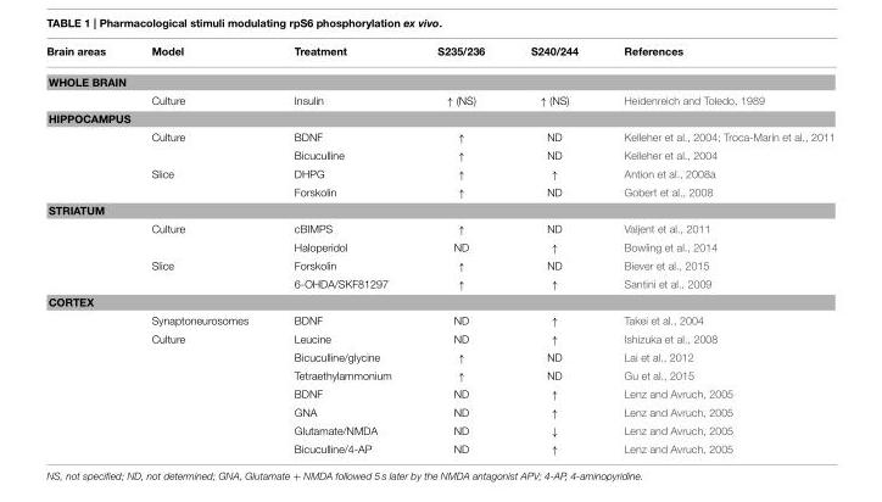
<table><thead><tr><td>Brain areas</td><td>Model</td><td>Treatment</td><td>S235/236</td><td>S240/244</td><td>References</td></tr></thead><tbody><tr><td colspan="6">WHOLE BRAIN</td></tr><tr><td></td><td>Culture</td><td>Insulin</td><td>↑ (NS)</td><td>↑ (NS)</td><td>Heidenreich and Toledo, 1989</td></tr><tr><td colspan="6">HIPPOCAMPUS</td></tr><tr><td></td><td>Culture</td><td>BDNF</td><td>↑</td><td>ND</td><td>Kelleher et al., 2004; Troca-Marín et al., 2011</td></tr><tr><td></td><td></td><td>Bicuculline</td><td>↑</td><td>ND</td><td>Kelleher et al., 2004</td></tr><tr><td></td><td>Slice</td><td>DHPG</td><td>↑</td><td>↑</td><td>Antion et al., 2008a</td></tr><tr><td></td><td></td><td>Forskolin</td><td>↑</td><td>ND</td><td>Gobert et al., 2008</td></tr><tr><td colspan="6">STRIATUM</td></tr><tr><td></td><td>Culture</td><td>cBIMPS</td><td>↑</td><td>ND</td><td>Valjent et al., 2011</td></tr><tr><td></td><td></td><td>Haloperidol</td><td>ND</td><td>↑</td><td>Bowling et al., 2014</td></tr><tr><td></td><td>Slice</td><td>Forskolin</td><td>↑</td><td>ND</td><td>Biever et al., 2015</td></tr><tr><td></td><td></td><td>6-OHDA/SKF81297</td><td>↑</td><td>↑</td><td>Santini et al., 2009</td></tr><tr><td colspan="6">CORTEX</td></tr><tr><td></td><td>Synaptoneurosomes</td><td>BDNF</td><td>ND</td><td>↑</td><td>Takei et al., 2004</td></tr><tr><td></td><td>Culture</td><td>Leucine</td><td>ND</td><td>↑</td><td>Ishizuka et al., 2008</td></tr><tr><td></td><td></td><td>Bicuculline/glycine</td><td>↑</td><td>ND</td><td>Lai et al., 2012</td></tr><tr><td></td><td></td><td>Tetraethylammonium</td><td>↑</td><td>ND</td><td>Gu et al., 2015</td></tr><tr><td></td><td></td><td>BDNF</td><td>ND</td><td>↑</td><td>Lenz and Avruch, 2005</td></tr><tr><td></td><td></td><td>GNA</td><td>ND</td><td>↑</td><td>Lenz and Avruch, 2005</td></tr><tr><td></td><td></td><td>Glutamate/NMDA</td><td>ND</td><td>↓</td><td>Lenz and Avruch, 2005</td></tr><tr><td></td><td></td><td>Bicuculline/4-AP</td><td>ND</td><td>↑</td><td>Lenz and Avruch, 2005</td></tr></tbody></table>